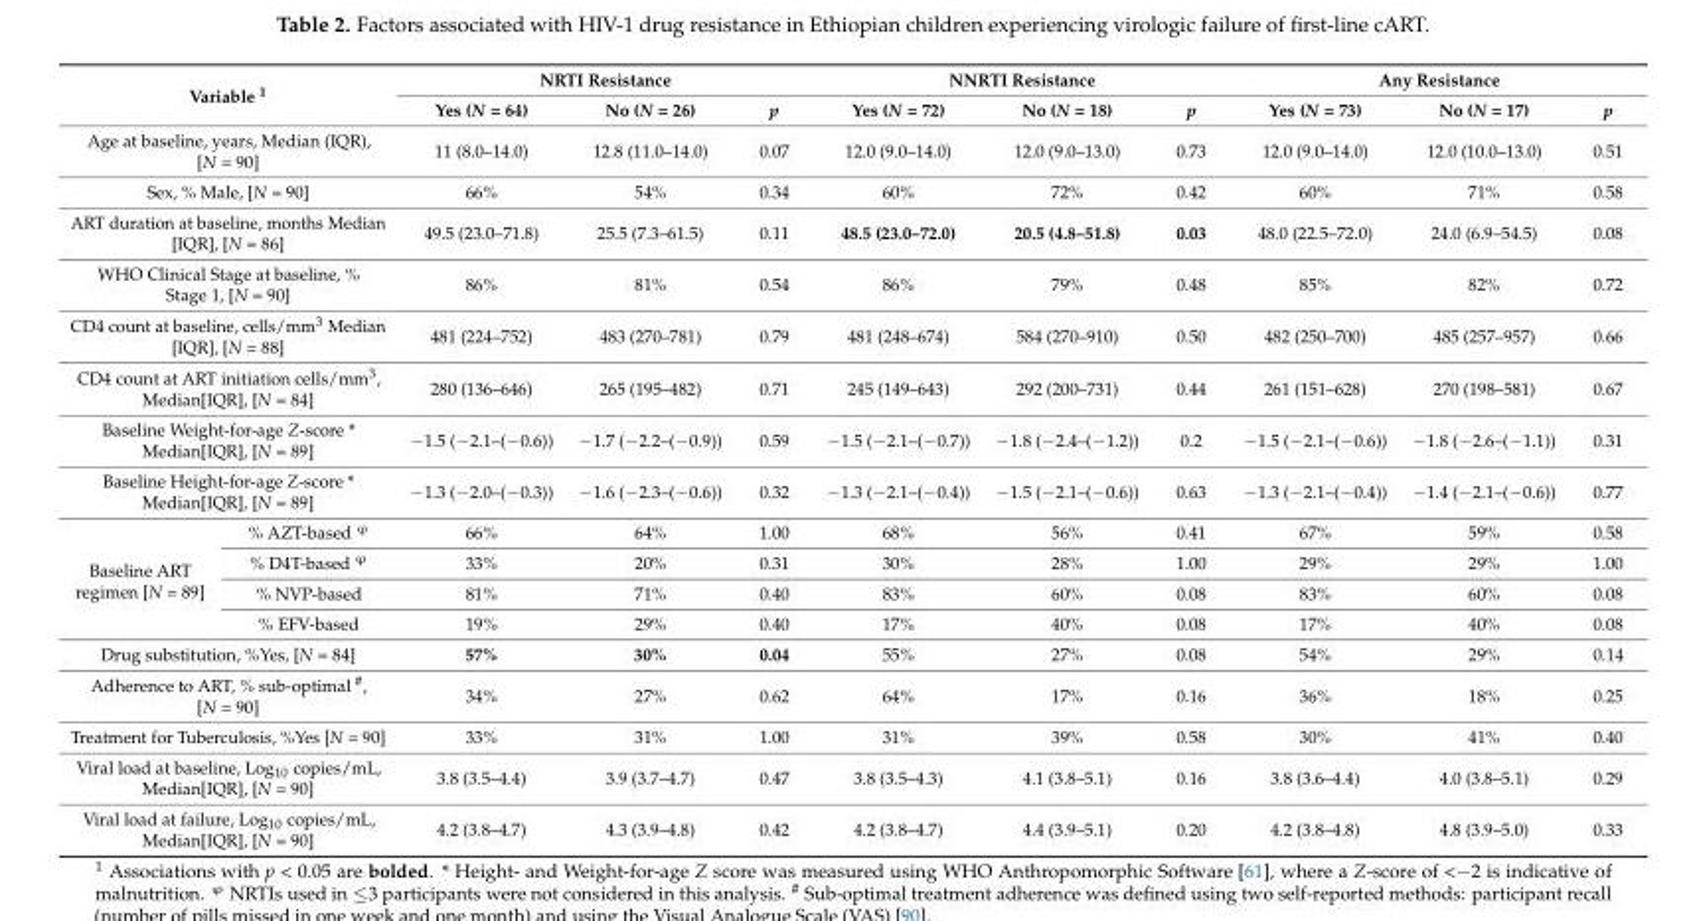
<table><thead><tr><td rowspan="2" colspan="2">Variable <sup>1</sup></td><td colspan="3">NRTI Resistance</td><td colspan="3">NNRTI Resistance</td><td colspan="3">Any Resistance</td></tr><tr><td>Yes (N = 64)</td><td>No (N = 26)</td><td>p</td><td>Yes (N = 72)</td><td>No (N = 18)</td><td>p</td><td>Yes (N = 73)</td><td>No (N = 17)</td><td>p</td></tr></thead><tbody><tr><td colspan="2">Age at baseline, years, Median (IQR), [N = 90]</td><td>11 (8.0–14.0)</td><td>12.8 (11.0–14.0)</td><td>0.07</td><td>12.0 (9.0–14.0)</td><td>12.0 (9.0–13.0)</td><td>0.73</td><td>12.0 (9.0–14.0)</td><td>12.0 (10.0–13.0)</td><td>0.51</td></tr><tr><td colspan="2">Sex, % Male, [N = 90]</td><td>66%</td><td>54%</td><td>0.34</td><td>60%</td><td>72%</td><td>0.42</td><td>60%</td><td>71%</td><td>0.58</td></tr><tr><td colspan="2">ART duration at baseline, months Median [IQR], [N = 86]</td><td>49.5 (23.0–71.8)</td><td>25.5 (7.3–61.5)</td><td>0.11</td><td>48.5 (23.0–72.0)</td><td>20.5 (4.8–51.8)</td><td>0.03</td><td>48.0 (22.5–72.0)</td><td>24.0 (6.9–54.5)</td><td>0.08</td></tr><tr><td colspan="2">WHO Clinical Stage at baseline, % Stage 1, [N = 90]</td><td>86%</td><td>81%</td><td>0.54</td><td>86%</td><td>79%</td><td>0.48</td><td>85%</td><td>82%</td><td>0.72</td></tr><tr><td colspan="2">CD4 count at baseline, cells/mm<sup>3</sup> Median [IQR], [N = 88]</td><td>481 (224–752)</td><td>483 (270–781)</td><td>0.79</td><td>481 (248–674)</td><td>584 (270–910)</td><td>0.50</td><td>482 (250–700)</td><td>485 (257–957)</td><td>0.66</td></tr><tr><td colspan="2">CD4 count at ART initiation cells/mm<sup>3</sup>, Median[IQR], [N = 84]</td><td>280 (136–646)</td><td>265 (195–482)</td><td>0.71</td><td>245 (149–643)</td><td>292 (200–731)</td><td>0.44</td><td>261 (151–628)</td><td>270 (198–581)</td><td>0.67</td></tr><tr><td colspan="2">Baseline Weight-for-age Z-score * Median[IQR], [N = 89]</td><td>−1.5 (−2.1–(−0.6))</td><td>−1.7 (−2.2–(−0.9))</td><td>0.59</td><td>−1.5 (−2.1–(−0.7))</td><td>−1.8 (−2.4–(−1.2))</td><td>0.2</td><td>−1.5 (−2.1–(−0.6))</td><td>−1.8 (−2.6–(−1.1))</td><td>0.31</td></tr><tr><td colspan="2">Baseline Height-for-age Z-score * Median[IQR], [N = 89]</td><td>−1.3 (−2.0–(−0.3))</td><td>−1.6 (−2.3–(−0.6))</td><td>0.32</td><td>−1.3 (−2.1–(−0.4))</td><td>−1.5 (−2.1–(−0.6))</td><td>0.63</td><td>−1.3 (−2.1–(−0.4))</td><td>−1.4 (−2.1–(−0.6))</td><td>0.77</td></tr><tr><td rowspan="4">Baseline ART regimen [N = 89]</td><td>% AZT-based <sup>ϕ</sup></td><td>66%</td><td>64%</td><td>1.00</td><td>68%</td><td>56%</td><td>0.41</td><td>67%</td><td>59%</td><td>0.58</td></tr><tr><td>% D4T-based <sup>ϕ</sup></td><td>33%</td><td>20%</td><td>0.31</td><td>30%</td><td>28%</td><td>1.00</td><td>29%</td><td>29%</td><td>1.00</td></tr><tr><td>% NVP-based</td><td>81%</td><td>71%</td><td>0.40</td><td>83%</td><td>60%</td><td>0.08</td><td>83%</td><td>60%</td><td>0.08</td></tr><tr><td>% EFV-based</td><td>19%</td><td>29%</td><td>0.40</td><td>17%</td><td>40%</td><td>0.08</td><td>17%</td><td>40%</td><td>0.08</td></tr><tr><td colspan="2">Drug substitution, %Yes, [N = 84]</td><td>57%</td><td>30%</td><td>0.04</td><td>55%</td><td>27%</td><td>0.08</td><td>54%</td><td>29%</td><td>0.14</td></tr><tr><td colspan="2">Adherence to ART, % sub-optimal <sup>#</sup>, [N = 90]</td><td>34%</td><td>27%</td><td>0.62</td><td>64%</td><td>17%</td><td>0.16</td><td>36%</td><td>18%</td><td>0.25</td></tr><tr><td colspan="2">Treatment for Tuberculosis, %Yes [N = 90]</td><td>33%</td><td>31%</td><td>1.00</td><td>31%</td><td>39%</td><td>0.58</td><td>30%</td><td>41%</td><td>0.40</td></tr><tr><td colspan="2">Viral load at baseline, Log<sub>10</sub> copies/mL, Median[IQR], [N = 90]</td><td>3.8 (3.5–4.4)</td><td>3.9 (3.7–4.7)</td><td>0.47</td><td>3.8 (3.5–4.3)</td><td>4.1 (3.8–5.1)</td><td>0.16</td><td>3.8 (3.6–4.4)</td><td>4.0 (3.8–5.1)</td><td>0.29</td></tr><tr><td colspan="2">Viral load at failure, Log<sub>10</sub> copies/mL, Median[IQR], [N = 90]</td><td>4.2 (3.8–4.7)</td><td>4.3 (3.9–4.8)</td><td>0.42</td><td>4.2 (3.8–4.7)</td><td>4.4 (3.9–5.1)</td><td>0.20</td><td>4.2 (3.8–4.8)</td><td>4.8 (3.9–5.0)</td><td>0.33</td></tr></tbody></table>